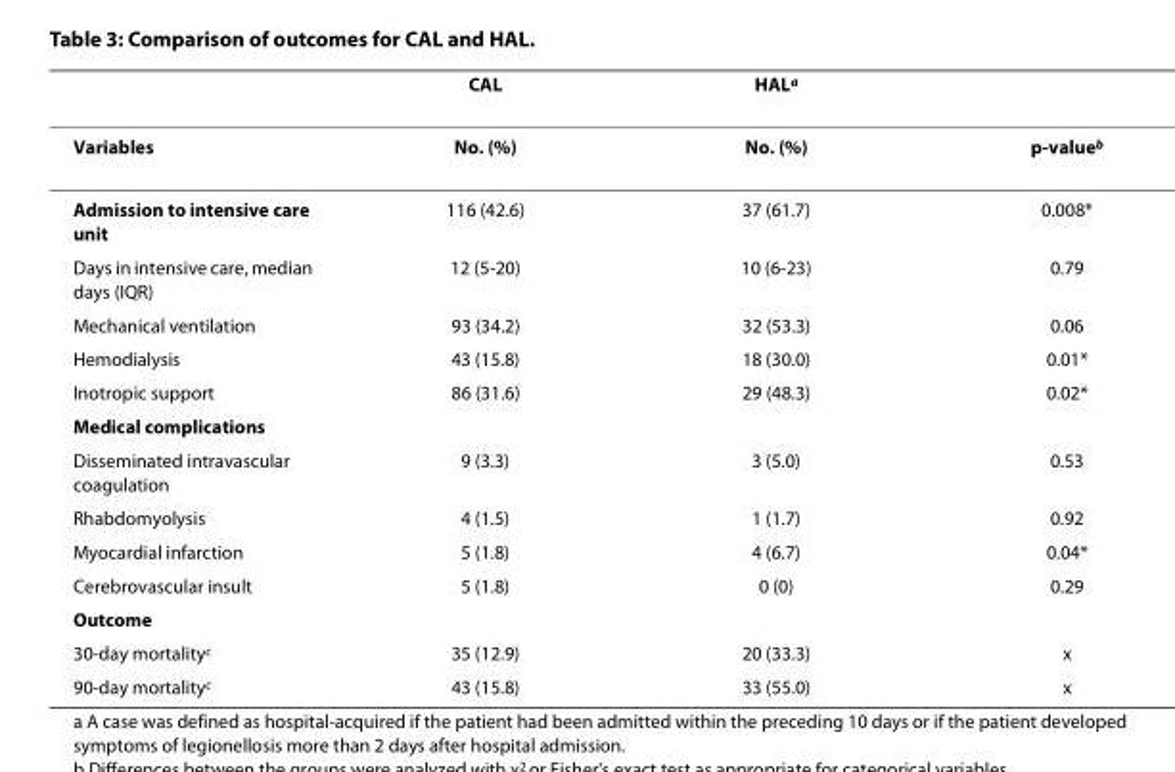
<table><thead><tr><td></td><td>CAL</td><td>HAL<sup>a</sup></td><td></td></tr></thead><tbody><tr><td>Variables</td><td>No. (%)</td><td>No. (%)</td><td>p-value<sup>b</sup></td></tr><tr><td>Admission to intensive care unit</td><td>116 (42.6)</td><td>37 (61.7)</td><td>0.008*</td></tr><tr><td>Days in intensive care, median days (IQR)</td><td>12 (5-20)</td><td>10 (6-23)</td><td>0.79</td></tr><tr><td>Mechanical ventilation</td><td>93 (34.2)</td><td>32 (53.3)</td><td>0.06</td></tr><tr><td>Hemodialysis</td><td>43 (15.8)</td><td>18 (30.0)</td><td>0.01*</td></tr><tr><td>Inotropic support</td><td>86 (31.6)</td><td>29 (48.3)</td><td>0.02*</td></tr><tr><td colspan="4">Medical complications</td></tr><tr><td>Disseminated intravascular coagulation</td><td>9 (3.3)</td><td>3 (5.0)</td><td>0.53</td></tr><tr><td>Rhabdomyolysis</td><td>4 (1.5)</td><td>1 (1.7)</td><td>0.92</td></tr><tr><td>Myocardial infarction</td><td>5 (1.8)</td><td>4 (6.7)</td><td>0.04*</td></tr><tr><td>Cerebrovascular insult</td><td>5 (1.8)</td><td>0 (0)</td><td>0.29</td></tr><tr><td colspan="4">Outcome</td></tr><tr><td>30-day mortality<sup>c</sup></td><td>35 (12.9)</td><td>20 (33.3)</td><td>x</td></tr><tr><td>90-day mortality<sup>c</sup></td><td>43 (15.8)</td><td>33 (55.0)</td><td>x</td></tr></tbody></table>